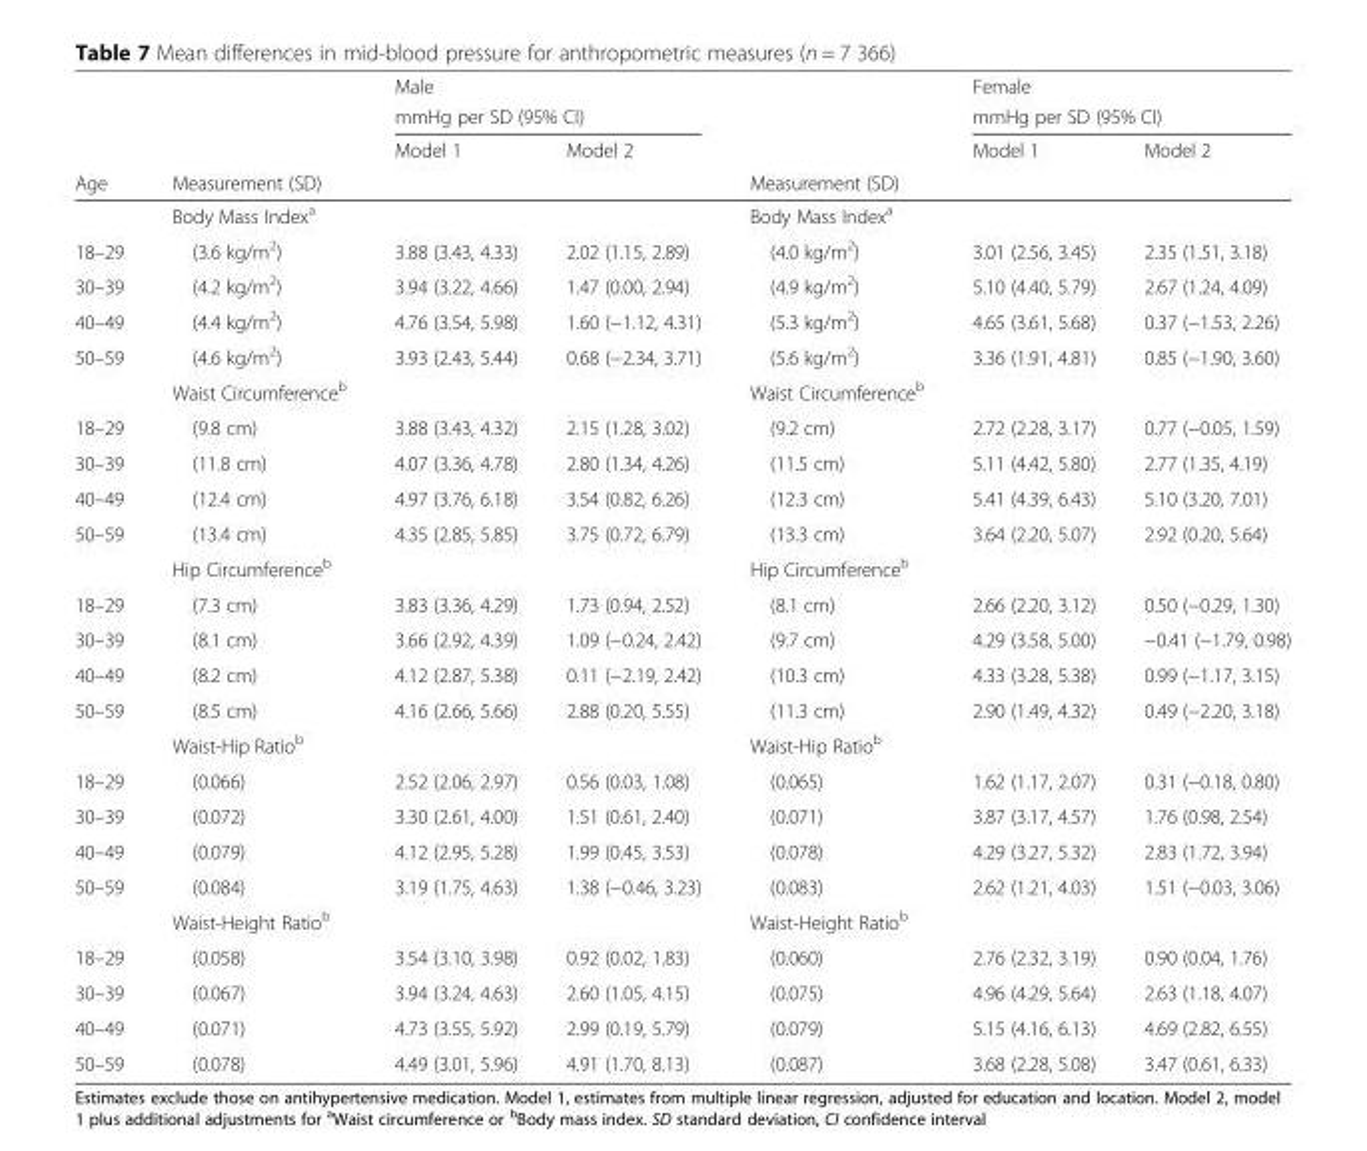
<table><thead><tr><td rowspan="4">Age</td><td rowspan="4">Measurement (SD)</td><td rowspan="2" colspan="2">Male mmHg per SD (95% CI)</td><td rowspan="4">Measurement (SD)</td><td rowspan="2" colspan="2">Female mmHg per SD (95% CI)</td></tr><tr></tr><tr><td rowspan="2">Model 1</td><td rowspan="2">Model 2</td><td rowspan="2">Model 1</td><td rowspan="2">Model 2</td></tr><tr></tr></thead><tbody><tr><td></td><td>Body Mass Index<sup>a</sup></td><td></td><td></td><td>Body Mass Index<sup>a</sup></td><td></td><td></td></tr><tr><td>18–29</td><td>(3.6 kg/m<sup>2</sup>)</td><td>3.88 (3.43, 4.33)</td><td>2.02 (1.15, 2.89)</td><td>(4.0 kg/m<sup>2</sup>)</td><td>3.01 (2.56, 3.45)</td><td>2.35 (1.51, 3.18)</td></tr><tr><td>30–39</td><td>(4.2 kg/m<sup>2</sup>)</td><td>3.94 (3.22, 4.66)</td><td>1.47 (0.00, 2.94)</td><td>(4.9 kg/m<sup>2</sup>)</td><td>5.10 (4.40, 5.79)</td><td>2.67 (1.24, 4.09)</td></tr><tr><td>40–49</td><td>(4.4 kg/m<sup>2</sup>)</td><td>4.76 (3.54, 5.98)</td><td>1.60 (−1.12, 4.31)</td><td>(5.3 kg/m<sup>2</sup>)</td><td>4.65 (3.61, 5.68)</td><td>0.37 (−1.53, 2.26)</td></tr><tr><td rowspan="2">50–59</td><td>(4.6 kg/m<sup>2</sup>)</td><td>3.93 (2.43, 5.44)</td><td>0.68 (−2.34, 3.71)</td><td>(5.6 kg/m<sup>2</sup>)</td><td>3.36 (1.91, 4.81)</td><td>0.85 (−1.90, 3.60)</td></tr><tr><td>Waist Circumference<sup>b</sup></td><td></td><td></td><td>Waist Circumference<sup>b</sup></td><td></td><td></td></tr><tr><td>18–29</td><td>(9.8 cm)</td><td>3.88 (3.43, 4.32)</td><td>2.15 (1.28, 3.02)</td><td>(9.2 cm)</td><td>2.72 (2.28, 3.17)</td><td>0.77 (−0.05, 1.59)</td></tr><tr><td>30–39</td><td>(11.8 cm)</td><td>4.07 (3.36, 4.78)</td><td>2.80 (1.34, 4.26)</td><td>(11.5 cm)</td><td>5.11 (4.42, 5.80)</td><td>2.77 (1.35, 4.19)</td></tr><tr><td>40–49</td><td>(12.4 cm)</td><td>4.97 (3.76, 6.18)</td><td>3.54 (0.82, 6.26)</td><td>(12.3 cm)</td><td>5.41 (4.39, 6.43)</td><td>5.10 (3.20, 7.01)</td></tr><tr><td rowspan="2">50–59</td><td>(13.4 cm)</td><td>4.35 (2.85, 5.85)</td><td>3.75 (0.72, 6.79)</td><td>(13.3 cm)</td><td>3.64 (2.20, 5.07)</td><td>2.92 (0.20, 5.64)</td></tr><tr><td>Hip Circumference<sup>b</sup></td><td></td><td></td><td>Hip Circumference<sup>b</sup></td><td></td><td></td></tr><tr><td>18–29</td><td>(7.3 cm)</td><td>3.83 (3.36, 4.29)</td><td>1.73 (0.94, 2.52)</td><td>(8.1 cm)</td><td>2.66 (2.20, 3.12)</td><td>0.50 (−0.29, 1.30)</td></tr><tr><td>30–39</td><td>(8.1 cm)</td><td>3.66 (2.92, 4.39)</td><td>1.09 (−0.24, 2.42)</td><td>(9.7 cm)</td><td>4.29 (3.58, 5.00)</td><td>−0.41 (−1.79, 0.98)</td></tr><tr><td>40–49</td><td>(8.2 cm)</td><td>4.12 (2.87, 5.38)</td><td>0.11 (−2.19, 2.42)</td><td>(10.3 cm)</td><td>4.33 (3.28, 5.38)</td><td>0.99 (−1.17, 3.15)</td></tr><tr><td rowspan="2">50–59</td><td>(8.5 cm)</td><td>4.16 (2.66, 5.66)</td><td>2.88 (0.20, 5.55)</td><td>(11.3 cm)</td><td>2.90 (1.49, 4.32)</td><td>0.49 (−2.20, 3.18)</td></tr><tr><td>Waist-Hip Ratio<sup>b</sup></td><td></td><td></td><td>Waist-Hip Ratio<sup>b</sup></td><td></td><td></td></tr><tr><td>18–29</td><td>(0.066)</td><td>2.52 (2.06, 2.97)</td><td>0.56 (0.03, 1.08)</td><td>(0.065)</td><td>1.62 (1.17, 2.07)</td><td>0.31 (−0.18, 0.80)</td></tr><tr><td>30–39</td><td>(0.072)</td><td>3.30 (2.61, 4.00)</td><td>1.51 (0.61, 2.40)</td><td>(0.071)</td><td>3.87 (3.17, 4.57)</td><td>1.76 (0.98, 2.54)</td></tr><tr><td>40–49</td><td>(0.079)</td><td>4.12 (2.95, 5.28)</td><td>1.99 (0.45, 3.53)</td><td>(0.078)</td><td>4.29 (3.27, 5.32)</td><td>2.83 (1.72, 3.94)</td></tr><tr><td rowspan="2">50–59</td><td>(0.084)</td><td>3.19 (1.75, 4.63)</td><td>1.38 (−0.46, 3.23)</td><td>(0.083)</td><td>2.62 (1.21, 4.03)</td><td>1.51 (−0.03, 3.06)</td></tr><tr><td>Waist-Height Ratio<sup>b</sup></td><td></td><td></td><td>Waist-Height Ratio<sup>b</sup></td><td></td><td></td></tr><tr><td>18–29</td><td>(0.058)</td><td>3.54 (3.10, 3.98)</td><td>0.92 (0.02, 1.83)</td><td>(0.060)</td><td>2.76 (2.32, 3.19)</td><td>0.90 (0.04, 1.76)</td></tr><tr><td>30–39</td><td>(0.067)</td><td>3.94 (3.24, 4.63)</td><td>2.60 (1.05, 4.15)</td><td>(0.075)</td><td>4.96 (4.29, 5.64)</td><td>2.63 (1.18, 4.07)</td></tr><tr><td>40–49</td><td>(0.071)</td><td>4.73 (3.55, 5.92)</td><td>2.99 (0.19, 5.79)</td><td>(0.079)</td><td>5.15 (4.16, 6.13)</td><td>4.69 (2.82, 6.55)</td></tr><tr><td>50–59</td><td>(0.078)</td><td>4.49 (3.01, 5.96)</td><td>4.91 (1.70, 8.13)</td><td>(0.087)</td><td>3.68 (2.28, 5.08)</td><td>3.47 (0.61, 6.33)</td></tr></tbody></table>